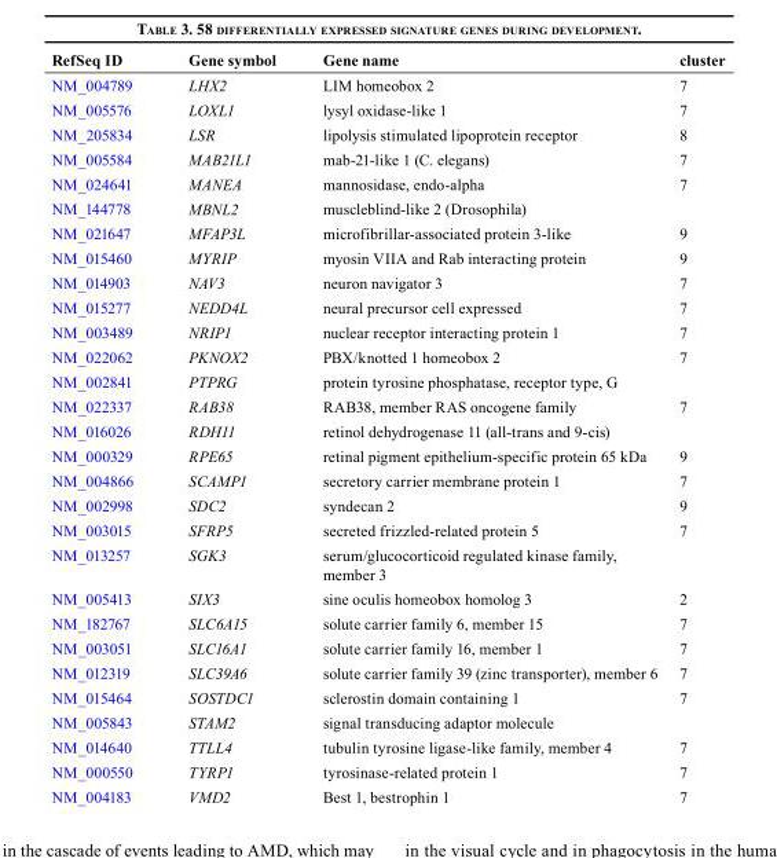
<table><thead><tr><td>RefSeq ID</td><td>Gene symbol</td><td>Gene name</td><td>cluster</td></tr></thead><tbody><tr><td>NM_004789</td><td>LHX2</td><td>LIM homeobox 2</td><td>7</td></tr><tr><td>NM_005576</td><td>LOXL1</td><td>lysyl oxidase-like 1</td><td>7</td></tr><tr><td>NM_205834</td><td>LSR</td><td>lipolysis stimulated lipoprotein receptor</td><td>8</td></tr><tr><td>NM_005584</td><td>MAB21L1</td><td>mab-21-like 1 (C. elegans)</td><td>7</td></tr><tr><td>NM_024641</td><td>MANEA</td><td>mannosidase, endo-alpha</td><td>7</td></tr><tr><td>NM_144778</td><td>MBNL2</td><td>muscleblind-like 2 (Drosophila)</td><td></td></tr><tr><td>NM_021647</td><td>MFAP3L</td><td>microfibrillar-associated protein 3-like</td><td>9</td></tr><tr><td>NM_015460</td><td>MYRIP</td><td>myosin VIIA and Rab interacting protein</td><td>9</td></tr><tr><td>NM_014903</td><td>NAV3</td><td>neuron navigator 3</td><td>7</td></tr><tr><td>NM_015277</td><td>NEDD4L</td><td>neural precursor cell expressed</td><td>7</td></tr><tr><td>NM_003489</td><td>NRIP1</td><td>nuclear receptor interacting protein 1</td><td>7</td></tr><tr><td>NM_022062</td><td>PKNOX2</td><td>PBX/knotted 1 homeobox 2</td><td>7</td></tr><tr><td>NM_002841</td><td>PTPRG</td><td>protein tyrosine phosphatase, receptor type, G</td><td></td></tr><tr><td>NM_022337</td><td>RAB38</td><td>RAB38, member RAS oncogene family</td><td>7</td></tr><tr><td>NM_016026</td><td>RDH11</td><td>retinol dehydrogenase 11 (all-trans and 9-cis)</td><td></td></tr><tr><td>NM_000329</td><td>RPE65</td><td>retinal pigment epithelium-specific protein 65 kDa</td><td>9</td></tr><tr><td>NM_004866</td><td>SCAMP1</td><td>secretory carrier membrane protein 1</td><td>7</td></tr><tr><td>NM_002998</td><td>SDC2</td><td>syndecan 2</td><td>9</td></tr><tr><td>NM_003015</td><td>SFRP5</td><td>secreted frizzled-related protein 5</td><td>7</td></tr><tr><td>NM_013257</td><td>SGK3</td><td>serum/glucocorticoid regulated kinase family, member 3</td><td></td></tr><tr><td>NM_005413</td><td>SIX3</td><td>sine oculis homeobox homolog 3</td><td>2</td></tr><tr><td>NM_182767</td><td>SLC6A15</td><td>solute carrier family 6, member 15</td><td>7</td></tr><tr><td>NM_003051</td><td>SLC16A1</td><td>solute carrier family 16, member 1</td><td>7</td></tr><tr><td>NM_012319</td><td>SLC39A6</td><td>solute carrier family 39 (zinc transporter), member 6</td><td>7</td></tr><tr><td>NM_015464</td><td>SOSTDC1</td><td>sclerostin domain containing 1</td><td>7</td></tr><tr><td>NM_005843</td><td>STAM2</td><td>signal transducing adaptor molecule</td><td></td></tr><tr><td>NM_014640</td><td>TTLL4</td><td>tubulin tyrosine ligase-like family, member 4</td><td>7</td></tr><tr><td>NM_000550</td><td>TYRP1</td><td>tyrosinase-related protein 1</td><td>7</td></tr><tr><td>NM_004183</td><td>VMD2</td><td>Best 1, bestrophin 1</td><td>7</td></tr></tbody></table>